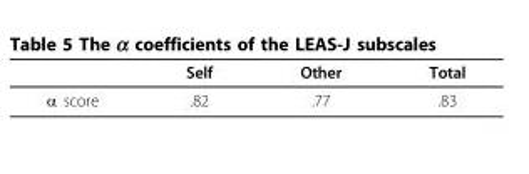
<table><thead><tr><td></td><td>Self</td><td>Other</td><td>Total</td></tr></thead><tbody><tr><td>score</td><td>.82</td><td>.77</td><td>.83</td></tr></tbody></table>